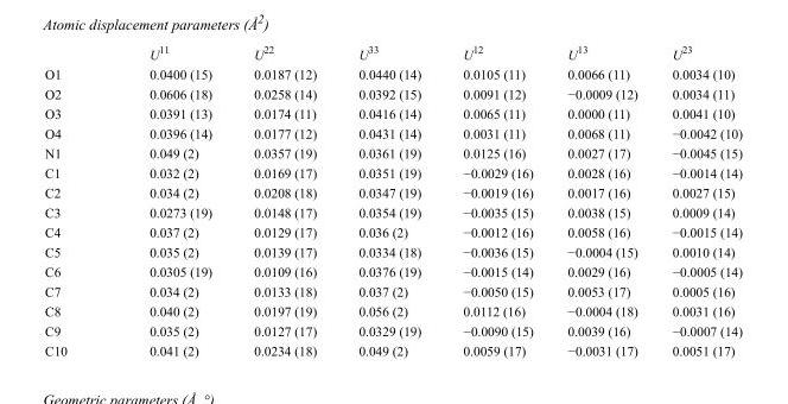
<table><thead><tr><td></td><td>U<sup>11</sup></td><td>U<sup>22</sup></td><td>U<sup>33</sup></td><td>U<sup>12</sup></td><td>U<sup>13</sup></td><td>U<sup>23</sup></td></tr></thead><tbody><tr><td>O1</td><td>0.0400 (15)</td><td>0.0187 (12)</td><td>0.0440 (14)</td><td>0.0105 (11)</td><td>0.0066 (11)</td><td>0.0034 (10)</td></tr><tr><td>O2</td><td>0.0606 (18)</td><td>0.0258 (14)</td><td>0.0392 (15)</td><td>0.0091 (12)</td><td>−0.0009 (12)</td><td>0.0034 (11)</td></tr><tr><td>O3</td><td>0.0391 (13)</td><td>0.0174 (11)</td><td>0.0416 (14)</td><td>0.0065 (11)</td><td>0.0000 (11)</td><td>0.0041 (10)</td></tr><tr><td>O4</td><td>0.0396 (14)</td><td>0.0177 (12)</td><td>0.0431 (14)</td><td>0.0031 (11)</td><td>0.0068 (11)</td><td>−0.0042 (10)</td></tr><tr><td>N1</td><td>0.049 (2)</td><td>0.0357 (19)</td><td>0.0361 (19)</td><td>0.0125 (16)</td><td>0.0027 (17)</td><td>−0.0045 (15)</td></tr><tr><td>C1</td><td>0.032 (2)</td><td>0.0169 (17)</td><td>0.0351 (19)</td><td>−0.0029 (16)</td><td>0.0028 (16)</td><td>−0.0014 (14)</td></tr><tr><td>C2</td><td>0.034 (2)</td><td>0.0208 (18)</td><td>0.0347 (19)</td><td>−0.0019 (16)</td><td>0.0017 (16)</td><td>0.0027 (15)</td></tr><tr><td>C3</td><td>0.0273 (19)</td><td>0.0148 (17)</td><td>0.0354 (19)</td><td>−0.0035 (15)</td><td>0.0038 (15)</td><td>0.0009 (14)</td></tr><tr><td>C4</td><td>0.037 (2)</td><td>0.0129 (17)</td><td>0.036 (2)</td><td>−0.0012 (16)</td><td>0.0058 (16)</td><td>−0.0015 (14)</td></tr><tr><td>C5</td><td>0.035 (2)</td><td>0.0139 (17)</td><td>0.0334 (18)</td><td>−0.0036 (15)</td><td>−0.0004 (15)</td><td>0.0010 (14)</td></tr><tr><td>C6</td><td>0.0305 (19)</td><td>0.0109 (16)</td><td>0.0376 (19)</td><td>−0.0015 (14)</td><td>0.0029 (16)</td><td>−0.0005 (14)</td></tr><tr><td>C7</td><td>0.034 (2)</td><td>0.0133 (18)</td><td>0.037 (2)</td><td>−0.0050 (15)</td><td>0.0053 (17)</td><td>0.0005 (16)</td></tr><tr><td>C8</td><td>0.040 (2)</td><td>0.0197 (19)</td><td>0.056 (2)</td><td>0.0112 (16)</td><td>−0.0004 (18)</td><td>0.0031 (16)</td></tr><tr><td>C9</td><td>0.035 (2)</td><td>0.0127 (17)</td><td>0.0329 (19)</td><td>−0.0090 (15)</td><td>0.0039 (16)</td><td>−0.0007 (14)</td></tr><tr><td>C10</td><td>0.041 (2)</td><td>0.0234 (18)</td><td>0.049 (2)</td><td>0.0059 (17)</td><td>−0.0031 (17)</td><td>0.0051 (17)</td></tr></tbody></table>